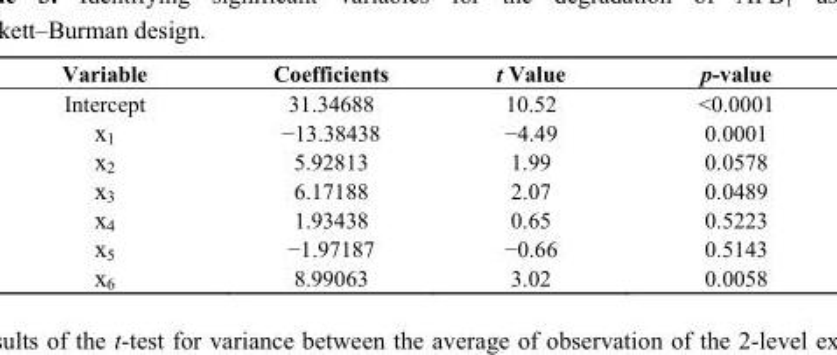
<table><thead><tr><td>Variable</td><td>Coefficients</td><td>t Value</td><td>p-value</td></tr></thead><tbody><tr><td>Intercept</td><td>31.34688</td><td>10.52</td><td>&lt;0.0001</td></tr><tr><td>x<sub>1</sub></td><td>−13.38438</td><td>−4.49</td><td>0.0001</td></tr><tr><td>x<sub>2</sub></td><td>5.92813</td><td>1.99</td><td>0.0578</td></tr><tr><td>x<sub>3</sub></td><td>6.17188</td><td>2.07</td><td>0.0489</td></tr><tr><td>x<sub>4</sub></td><td>1.93438</td><td>0.65</td><td>0.5223</td></tr><tr><td>x<sub>5</sub></td><td>−1.97187</td><td>−0.66</td><td>0.5143</td></tr><tr><td>x<sub>6</sub></td><td>8.99063</td><td>3.02</td><td>0.0058</td></tr></tbody></table>